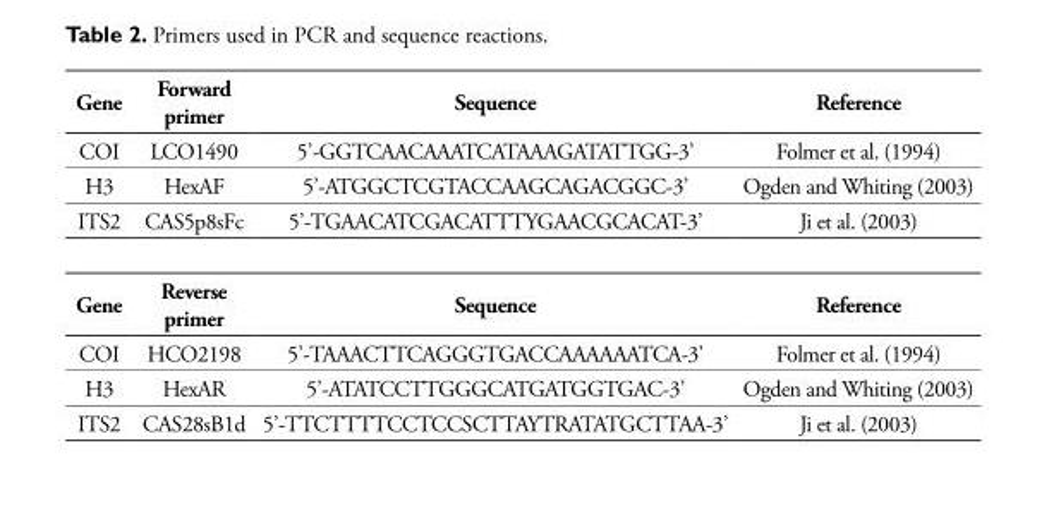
<table><tbody><tr><td>Gene</td><td>Forward primer</td><td>Sequence</td><td>Reference</td></tr><tr><td>COI</td><td>LCO1490</td><td>5’-GGTCAACAAATCATAAAGATATTGG-3’</td><td>Folmer et al. (1994)</td></tr><tr><td>H3</td><td>HexAF</td><td>5’-ATGGCTCGTACCAAGCAGACGGC-3’</td><td>Ogden and Whiting (2003)</td></tr><tr><td>ITS2</td><td>CAS5p8sFc</td><td>5’-TGAACATCGACATTTYGAACGCACAT-3’</td><td>Ji et al. (2003)</td></tr><tr><td>Gene</td><td>Reverse primer</td><td>Sequence</td><td>Reference</td></tr><tr><td>COI</td><td>HCO2198</td><td>5’-TAAACTTCAGGGTGACCAAAAAATCA-3’</td><td>Folmer et al. (1994)</td></tr><tr><td>H3</td><td>HexAR</td><td>5’-ATATCCTTGGGCATGATGGTGAC-3’</td><td>Ogden and Whiting (2003)</td></tr><tr><td>ITS2</td><td>CAS28sB1d</td><td>5’-TTCTTTTCCTCCSCTTAYTRATATGCTTAA-3’</td><td>Ji et al. (2003)</td></tr></tbody></table>